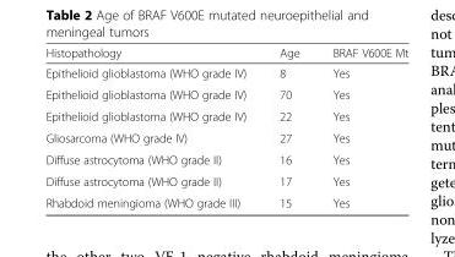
<table><thead><tr><td>Histopathology</td><td>Age</td><td>BRAF V600E Mt</td></tr></thead><tbody><tr><td>Epithelioid glioblastoma (WHO grade IV)</td><td>8</td><td>Yes</td></tr><tr><td>Epithelioid glioblastoma (WHO grade IV)</td><td>70</td><td>Yes</td></tr><tr><td>Epithelioid glioblastoma (WHO grade IV)</td><td>22</td><td>Yes</td></tr><tr><td>Gliosarcoma (WHO grade IV)</td><td>27</td><td>Yes</td></tr><tr><td>Diffuse astrocytoma (WHO grade II)</td><td>16</td><td>Yes</td></tr><tr><td>Diffuse astrocytoma (WHO grade II)</td><td>17</td><td>Yes</td></tr><tr><td>Rhabdoid meningioma (WHO grade III)</td><td>15</td><td>Yes</td></tr></tbody></table>